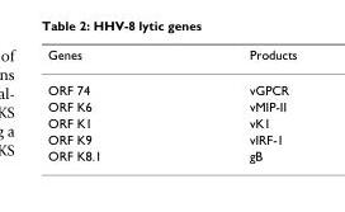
<table><thead><tr><td>Genes</td><td>Products</td></tr></thead><tbody><tr><td>ORF 74</td><td>vGPCR</td></tr><tr><td>ORF K6</td><td>vMIP-II</td></tr><tr><td>ORF K1</td><td>vK1</td></tr><tr><td>ORF K9</td><td>vIRF-1</td></tr><tr><td>ORF K8.1</td><td>gB</td></tr></tbody></table>